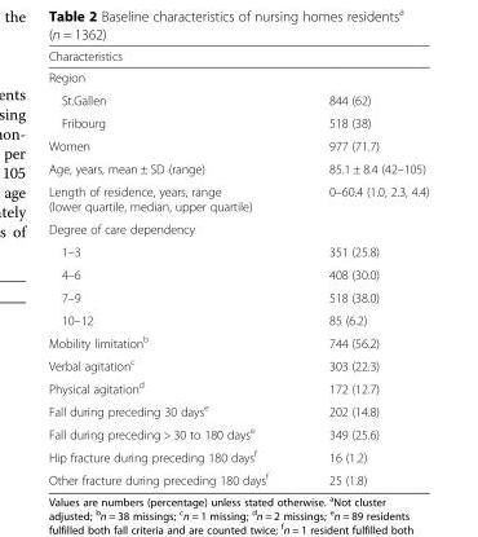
<table><thead><tr><td>Characteristics</td><td></td></tr></thead><tbody><tr><td colspan="2">Region</td></tr><tr><td>St.Gallen</td><td>844 (62)</td></tr><tr><td>Fribourg</td><td>518 (38)</td></tr><tr><td>Women</td><td>977 (71.7)</td></tr><tr><td>Age, years, mean ± SD (range)</td><td>85.1 ± 8.4 (42–105)</td></tr><tr><td>Length of residence, years, range (lower quartile, median, upper quartile)</td><td>0–60.4 (1.0, 2.3, 4.4)</td></tr><tr><td colspan="2">Degree of care dependency</td></tr><tr><td>1–3</td><td>351 (25.8)</td></tr><tr><td>4–6</td><td>408 (30.0)</td></tr><tr><td>7–9</td><td>518 (38.0)</td></tr><tr><td>10–12</td><td>85 (6.2)</td></tr><tr><td>Mobility limitation<sup>b</sup></td><td>744 (56.2)</td></tr><tr><td>Verbal agitation<sup>c</sup></td><td>303 (22.3)</td></tr><tr><td>Physical agitation<sup>d</sup></td><td>172 (12.7)</td></tr><tr><td>Fall during preceding 30 days<sup>e</sup></td><td>202 (14.8)</td></tr><tr><td>Fall during preceding &gt; 30 to 180 days<sup>e</sup></td><td>349 (25.6)</td></tr><tr><td>Hip fracture during preceding 180 days<sup>f</sup></td><td>16 (1.2)</td></tr><tr><td>Other fracture during preceding 180 days<sup>f</sup></td><td>25 (1.8)</td></tr></tbody></table>